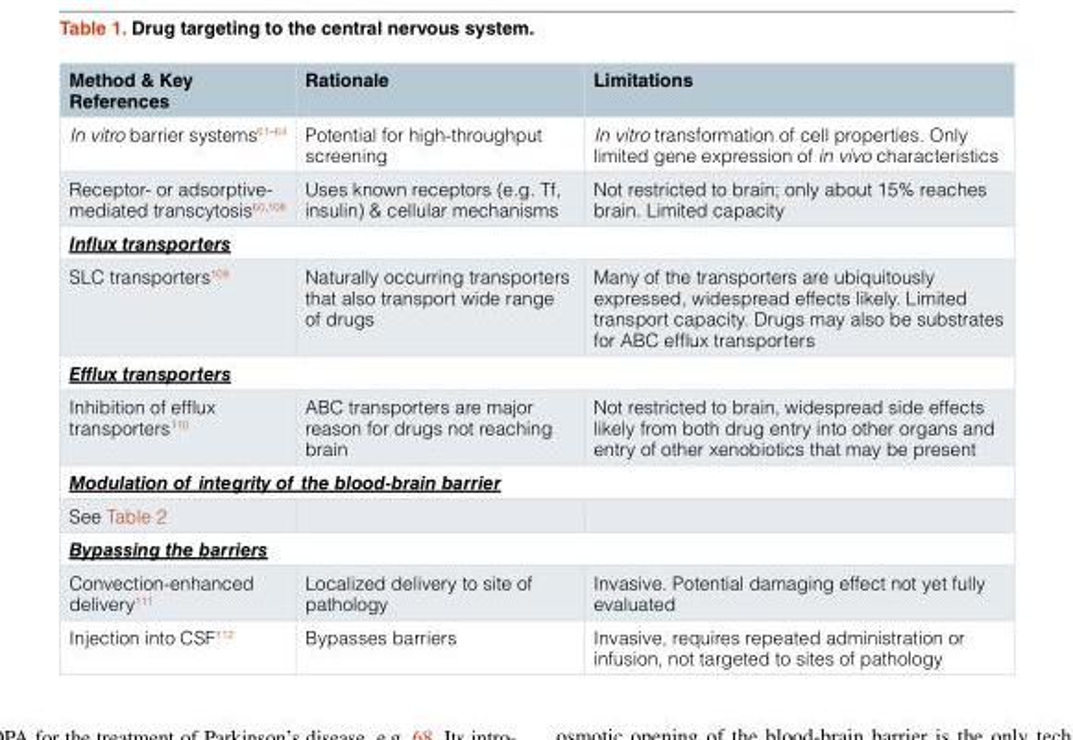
<table><thead><tr><td>Method &amp; Key References</td><td>Rationale</td><td>Limitations</td></tr></thead><tbody><tr><td>In vitro barrier systems<sup>61–64</sup></td><td>Potential for high-throughput screening</td><td>In vitro transformation of cell properties. Only limited gene expression of in vivo characteristics</td></tr><tr><td>Receptor- or adsorptive- mediated transcytosis<sup>60,108</sup></td><td>Uses known receptors (e.g. Tf, insulin) &amp; cellular mechanisms</td><td>Not restricted to brain; only about 15% reaches brain. Limited capacity</td></tr><tr><td colspan="3">Influx transporters</td></tr><tr><td>SLC transporters<sup>109</sup></td><td>Naturally occurring transporters that also transport wide range of drugs</td><td>Many of the transporters are ubiquitously expressed, widespread effects likely. Limited transport capacity. Drugs may also be substrates for ABC efflux transporters</td></tr><tr><td colspan="3">Efflux transporters</td></tr><tr><td>Inhibition of efflux transporters<sup>110</sup></td><td>ABC transporters are major reason for drugs not reaching brain</td><td>Not restricted to brain, widespread side effects likely from both drug entry into other organs and entry of other xenobiotics that may be present</td></tr><tr><td colspan="3">Modulation of integrity of the blood-brain barrier</td></tr><tr><td colspan="3">See Table 2</td></tr><tr><td colspan="3">Bypassing the barriers</td></tr><tr><td>Convection-enhanced delivery<sup>111</sup></td><td>Localized delivery to site of pathology</td><td>Invasive. Potential damaging effect not yet fully evaluated</td></tr><tr><td>Injection into CSF<sup>112</sup></td><td>Bypasses barriers</td><td>Invasive, requires repeated administration or infusion, not targeted to sites of pathology</td></tr></tbody></table>